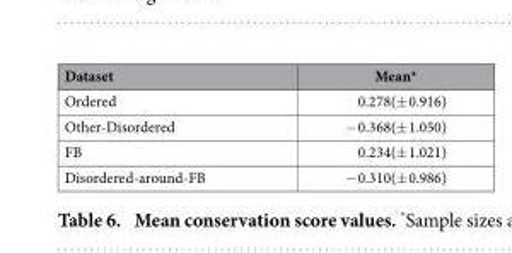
<table><thead><tr><td>Dataset</td><td>Mean*</td></tr></thead><tbody><tr><td>Ordered</td><td>0.278(± 0.916)</td></tr><tr><td>Other-Disordered</td><td>− 0.368(± 1.050)</td></tr><tr><td>FB</td><td>0.234(± 1.021)</td></tr><tr><td>Disordered-around-FB</td><td>− 0.310(± 0.986)</td></tr></tbody></table>